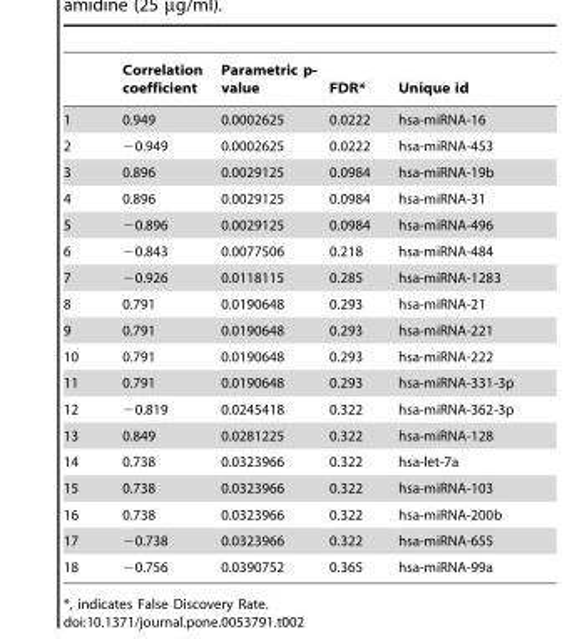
<table><thead><tr><td></td><td>Correlation coefficient</td><td>Parametric p- value</td><td>FDR*</td><td>Unique id</td></tr></thead><tbody><tr><td>1</td><td>0.949</td><td>0.0002625</td><td>0.0222</td><td>hsa-miRNA-16</td></tr><tr><td>2</td><td>−0.949</td><td>0.0002625</td><td>0.0222</td><td>hsa-miRNA-453</td></tr><tr><td>3</td><td>0.896</td><td>0.0029125</td><td>0.0984</td><td>hsa-miRNA-19b</td></tr><tr><td>4</td><td>0.896</td><td>0.0029125</td><td>0.0984</td><td>hsa-miRNA-31</td></tr><tr><td>5</td><td>−0.896</td><td>0.0029125</td><td>0.0984</td><td>hsa-miRNA-496</td></tr><tr><td>6</td><td>−0.843</td><td>0.0077506</td><td>0.218</td><td>hsa-miRNA-484</td></tr><tr><td>7</td><td>−0.926</td><td>0.0118115</td><td>0.285</td><td>hsa-miRNA-1283</td></tr><tr><td>8</td><td>0.791</td><td>0.0190648</td><td>0.293</td><td>hsa-miRNA-21</td></tr><tr><td>9</td><td>0.791</td><td>0.0190648</td><td>0.293</td><td>hsa-miRNA-221</td></tr><tr><td>10</td><td>0.791</td><td>0.0190648</td><td>0.293</td><td>hsa-miRNA-222</td></tr><tr><td>11</td><td>0.791</td><td>0.0190648</td><td>0.293</td><td>hsa-miRNA-331-3p</td></tr><tr><td>12</td><td>−0.819</td><td>0.0245418</td><td>0.322</td><td>hsa-miRNA-362-3p</td></tr><tr><td>13</td><td>0.849</td><td>0.0281225</td><td>0.322</td><td>hsa-miRNA-128</td></tr><tr><td>14</td><td>0.738</td><td>0.0323966</td><td>0.322</td><td>hsa-let-7a</td></tr><tr><td>15</td><td>0.738</td><td>0.0323966</td><td>0.322</td><td>hsa-miRNA-103</td></tr><tr><td>16</td><td>0.738</td><td>0.0323966</td><td>0.322</td><td>hsa-miRNA-200b</td></tr><tr><td>17</td><td>−0.738</td><td>0.0323966</td><td>0.322</td><td>hsa-miRNA-655</td></tr><tr><td>18</td><td>−0.756</td><td>0.0390752</td><td>0.365</td><td>hsa-miRNA-99a</td></tr></tbody></table>